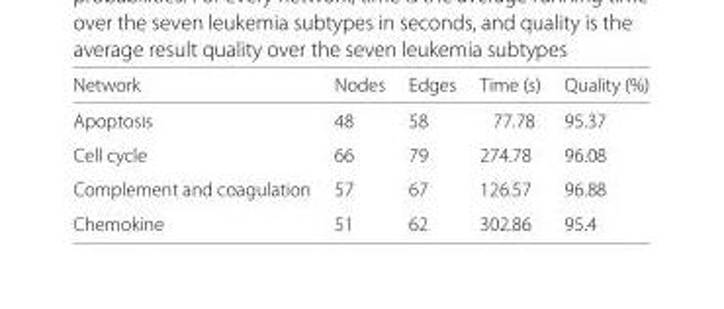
<table><thead><tr><td>Network</td><td>Nodes</td><td>Edges</td><td>Time (s)</td><td>Quality (%)</td></tr></thead><tbody><tr><td>Apoptosis</td><td>48</td><td>58</td><td>77.78</td><td>95.37</td></tr><tr><td>Cell cycle</td><td>66</td><td>79</td><td>274.78</td><td>96.08</td></tr><tr><td>Complement and coagulation</td><td>57</td><td>67</td><td>126.57</td><td>96.88</td></tr><tr><td>Chemokine</td><td>51</td><td>62</td><td>302.86</td><td>95.4</td></tr></tbody></table>